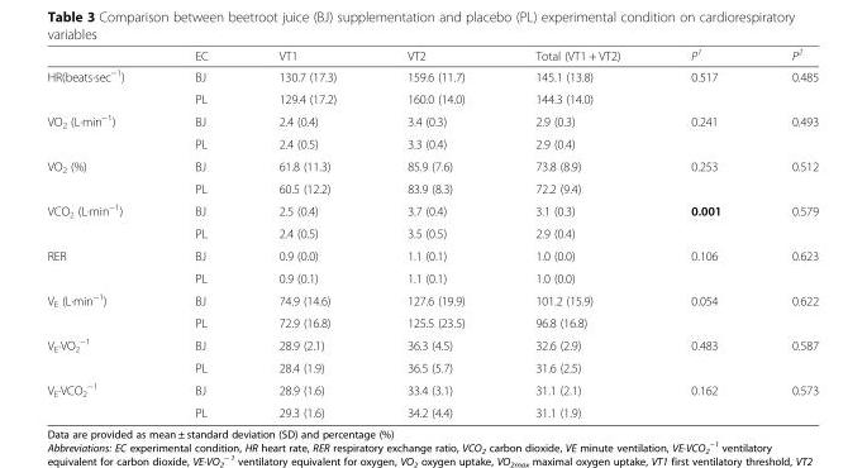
<table><thead><tr><td></td><td>EC</td><td>VT1</td><td>VT2</td><td>Total (VT1 + VT2)</td><td>P<sup>1</sup></td><td>P<sup>2</sup></td></tr></thead><tbody><tr><td rowspan="2">HR(beats·sec<sup>−1</sup>)</td><td>BJ</td><td>130.7 (17.3)</td><td>159.6 (11.7)</td><td>145.1 (13.8)</td><td>0.517</td><td>0.485</td></tr><tr><td>PL</td><td>129.4 (17.2)</td><td>160.0 (14.0)</td><td>144.3 (14.0)</td><td></td><td></td></tr><tr><td rowspan="2">VO<sub>2</sub> (L·min<sup>−1</sup>)</td><td>BJ</td><td>2.4 (0.4)</td><td>3.4 (0.3)</td><td>2.9 (0.3)</td><td>0.241</td><td>0.493</td></tr><tr><td>PL</td><td>2.4 (0.5)</td><td>3.3 (0.4)</td><td>2.9 (0.4)</td><td></td><td></td></tr><tr><td rowspan="2">VO<sub>2</sub> (%)</td><td>BJ</td><td>61.8 (11.3)</td><td>85.9 (7.6)</td><td>73.8 (8.9)</td><td>0.253</td><td>0.512</td></tr><tr><td>PL</td><td>60.5 (12.2)</td><td>83.9 (8.3)</td><td>72.2 (9.4)</td><td></td><td></td></tr><tr><td rowspan="2">VCO<sub>2</sub> (L·min<sup>−1</sup>)</td><td>BJ</td><td>2.5 (0.4)</td><td>3.7 (0.4)</td><td>3.1 (0.3)</td><td>0.001</td><td>0.579</td></tr><tr><td>PL</td><td>2.4 (0.5)</td><td>3.5 (0.5)</td><td>2.9 (0.4)</td><td></td><td></td></tr><tr><td rowspan="2">RER</td><td>BJ</td><td>0.9 (0.0)</td><td>1.1 (0.1)</td><td>1.0 (0.0)</td><td>0.106</td><td>0.623</td></tr><tr><td>PL</td><td>0.9 (0.1)</td><td>1.1 (0.1)</td><td>1.0 (0.0)</td><td></td><td></td></tr><tr><td rowspan="2">V<sub>E</sub> (L·min<sup>−1</sup>)</td><td>BJ</td><td>74.9 (14.6)</td><td>127.6 (19.9)</td><td>101.2 (15.9)</td><td>0.054</td><td>0.622</td></tr><tr><td>PL</td><td>72.9 (16.8)</td><td>125.5 (23.5)</td><td>96.8 (16.8)</td><td></td><td></td></tr><tr><td rowspan="2">V<sub>E</sub>·VO<sub>2</sub> <sup>−1</sup></td><td>BJ</td><td>28.9 (2.1)</td><td>36.3 (4.5)</td><td>32.6 (2.9)</td><td>0.483</td><td>0.587</td></tr><tr><td>PL</td><td>28.4 (1.9)</td><td>36.5 (5.7)</td><td>31.6 (2.5)</td><td></td><td></td></tr><tr><td rowspan="2">V<sub>E</sub>·VCO<sub>2</sub> <sup>−1</sup></td><td>BJ</td><td>28.9 (1.6)</td><td>33.4 (3.1)</td><td>31.1 (2.1)</td><td>0.162</td><td>0.573</td></tr><tr><td>PL</td><td>29.3 (1.6)</td><td>34.2 (4.4)</td><td>31.1 (1.9)</td><td></td><td></td></tr></tbody></table>